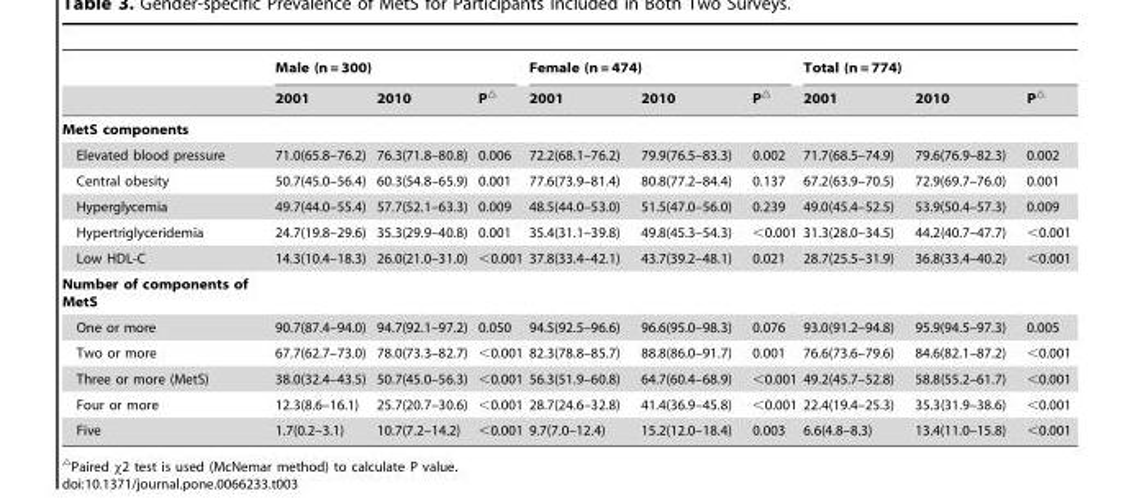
<table><thead><tr><td rowspan="2"></td><td colspan="3">Male (n = 300)</td><td colspan="3">Female (n = 474)</td><td colspan="3">Total (n = 774)</td></tr><tr><td>2001</td><td>2010</td><td>P△</td><td>2001</td><td>2010</td><td>P△</td><td>2001</td><td>2010</td><td>P△</td></tr></thead><tbody><tr><td colspan="10">MetS components</td></tr><tr><td>Elevated blood pressure</td><td>71.0(65.8–76.2)</td><td>76.3(71.8–80.8)</td><td>0.006</td><td>72.2(68.1–76.2)</td><td>79.9(76.5–83.3)</td><td>0.002</td><td>71.7(68.5–74.9)</td><td>79.6(76.9–82.3)</td><td>0.002</td></tr><tr><td>Central obesity</td><td>50.7(45.0–56.4)</td><td>60.3(54.8–65.9)</td><td>0.001</td><td>77.6(73.9–81.4)</td><td>80.8(77.2–84.4)</td><td>0.137</td><td>67.2(63.9–70.5)</td><td>72.9(69.7–76.0)</td><td>0.001</td></tr><tr><td>Hyperglycemia</td><td>49.7(44.0–55.4)</td><td>57.7(52.1–63.3)</td><td>0.009</td><td>48.5(44.0–53.0)</td><td>51.5(47.0–56.0)</td><td>0.239</td><td>49.0(45.4–52.5)</td><td>53.9(50.4–57.3)</td><td>0.009</td></tr><tr><td>Hypertriglyceridemia</td><td>24.7(19.8–29.6)</td><td>35.3(29.9–40.8)</td><td>0.001</td><td>35.4(31.1–39.8)</td><td>49.8(45.3–54.3)</td><td>&lt;0.001</td><td>31.3(28.0–34.5)</td><td>44.2(40.7–47.7)</td><td>&lt;0.001</td></tr><tr><td>Low HDL-C</td><td>14.3(10.4–18.3)</td><td>26.0(21.0–31.0)</td><td>&lt;0.001</td><td>37.8(33.4–42.1)</td><td>43.7(39.2–48.1)</td><td>0.021</td><td>28.7(25.5–31.9)</td><td>36.8(33.4–40.2)</td><td>&lt;0.001</td></tr><tr><td colspan="10">Number of components of MetS</td></tr><tr><td>One or more</td><td>90.7(87.4–94.0)</td><td>94.7(92.1–97.2)</td><td>0.050</td><td>94.5(92.5–96.6)</td><td>96.6(95.0–98.3)</td><td>0.076</td><td>93.0(91.2–94.8)</td><td>95.9(94.5–97.3)</td><td>0.005</td></tr><tr><td>Two or more</td><td>67.7(62.7–73.0)</td><td>78.0(73.3–82.7)</td><td>&lt;0.001</td><td>82.3(78.8–85.7)</td><td>88.8(86.0–91.7)</td><td>0.001</td><td>76.6(73.6–79.6)</td><td>84.6(82.1–87.2)</td><td>&lt;0.001</td></tr><tr><td>Three or more (MetS)</td><td>38.0(32.4–43.5)</td><td>50.7(45.0–56.3)</td><td>&lt;0.001</td><td>56.3(51.9–60.8)</td><td>64.7(60.4–68.9)</td><td>&lt;0.001</td><td>49.2(45.7–52.8)</td><td>58.8(55.2–61.7)</td><td>&lt;0.001</td></tr><tr><td>Four or more</td><td>12.3(8.6–16.1)</td><td>25.7(20.7–30.6)</td><td>&lt;0.001</td><td>28.7(24.6–32.8)</td><td>41.4(36.9–45.8)</td><td>&lt;0.001</td><td>22.4(19.4–25.3)</td><td>35.3(31.9–38.6)</td><td>&lt;0.001</td></tr><tr><td>Five</td><td>1.7(0.2–3.1)</td><td>10.7(7.2–14.2)</td><td>&lt;0.001</td><td>9.7(7.0–12.4)</td><td>15.2(12.0–18.4)</td><td>0.003</td><td>6.6(4.8–8.3)</td><td>13.4(11.0–15.8)</td><td>&lt;0.001</td></tr></tbody></table>